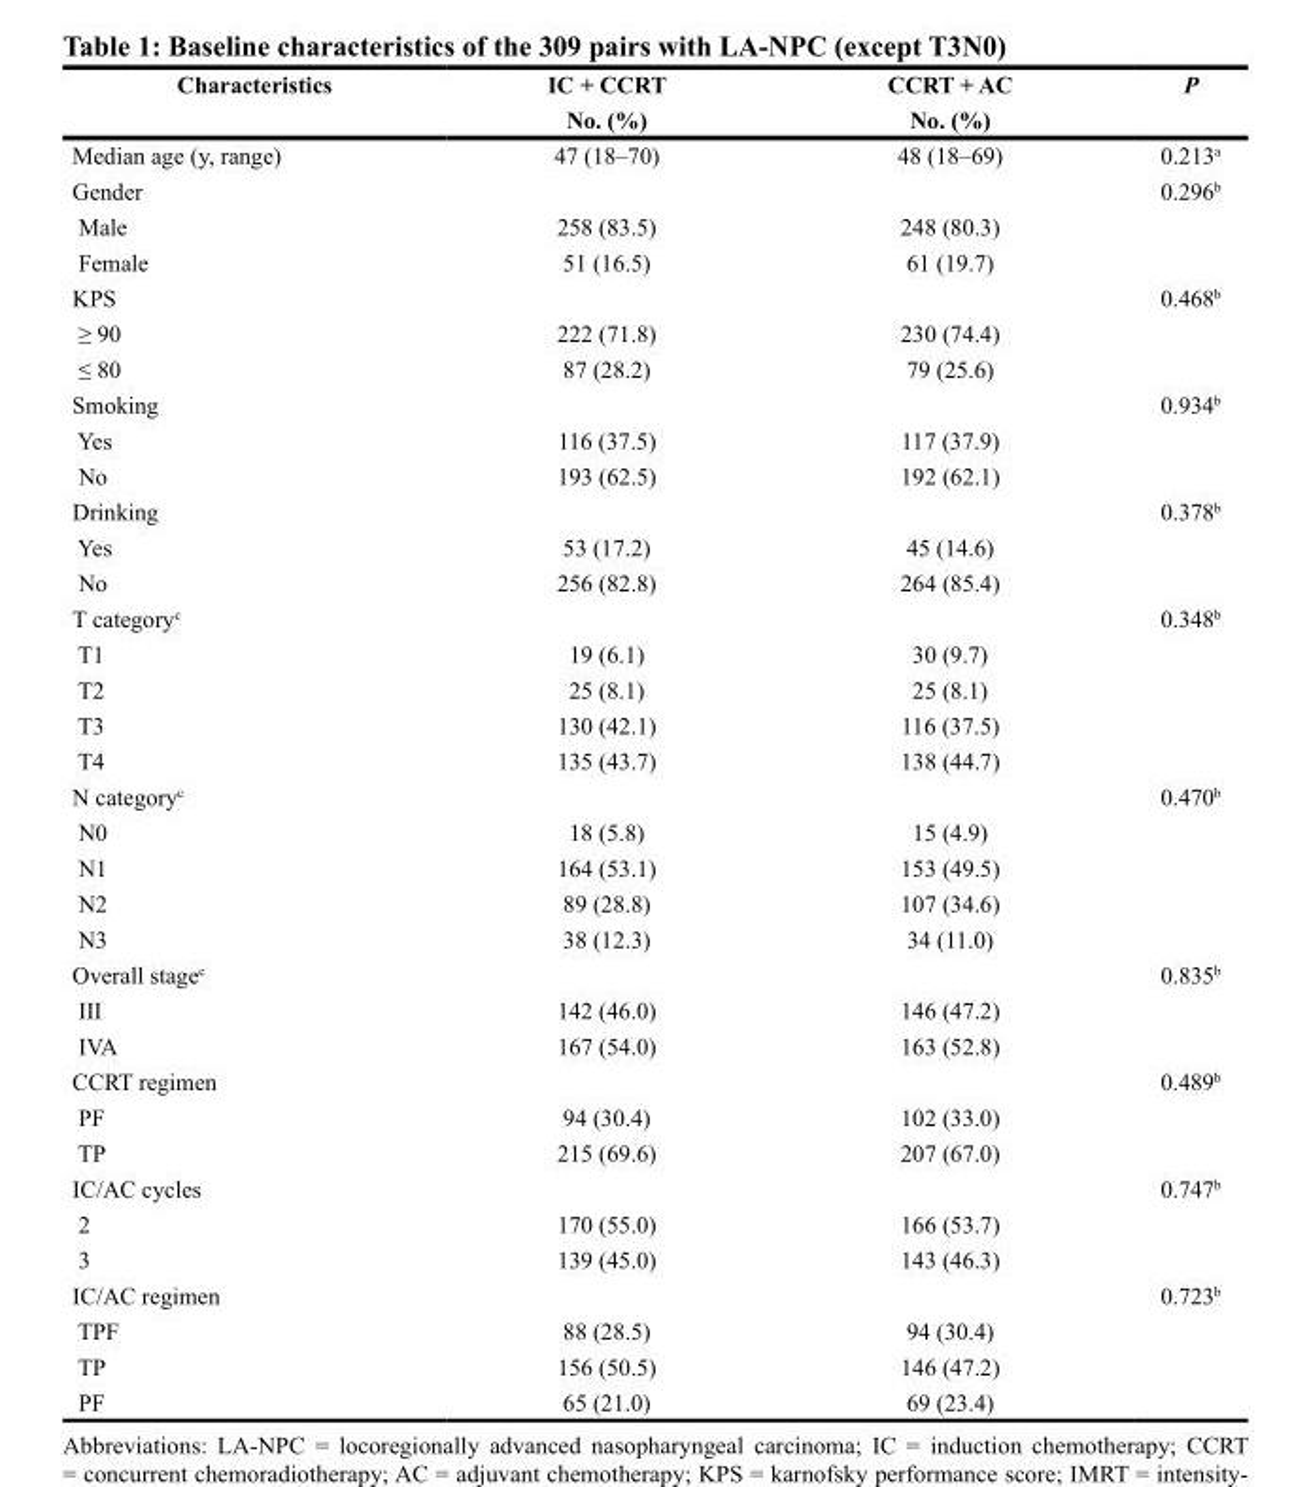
<table><thead><tr><td>Characteristics</td><td>IC + CCRT No. (%)</td><td>CCRT + AC No. (%)</td><td>P</td></tr></thead><tbody><tr><td>Median age (y, range)</td><td>47 (18–70)</td><td>48 (18–69)</td><td>0.213<sup>a</sup></td></tr><tr><td>Gender</td><td></td><td></td><td>0.296<sup>b</sup></td></tr><tr><td>Male</td><td>258 (83.5)</td><td>248 (80.3)</td><td></td></tr><tr><td>Female</td><td>51 (16.5)</td><td>61 (19.7)</td><td></td></tr><tr><td>KPS</td><td></td><td></td><td>0.468<sup>b</sup></td></tr><tr><td>≥ 90</td><td>222 (71.8)</td><td>230 (74.4)</td><td></td></tr><tr><td>≤ 80</td><td>87 (28.2)</td><td>79 (25.6)</td><td></td></tr><tr><td>Smoking</td><td></td><td></td><td>0.934<sup>b</sup></td></tr><tr><td>Yes</td><td>116 (37.5)</td><td>117 (37.9)</td><td></td></tr><tr><td>No</td><td>193 (62.5)</td><td>192 (62.1)</td><td></td></tr><tr><td>Drinking</td><td></td><td></td><td>0.378<sup>b</sup></td></tr><tr><td>Yes</td><td>53 (17.2)</td><td>45 (14.6)</td><td></td></tr><tr><td>No</td><td>256 (82.8)</td><td>264 (85.4)</td><td></td></tr><tr><td>T category<sup>c</sup></td><td></td><td></td><td>0.348<sup>b</sup></td></tr><tr><td>T1</td><td>19 (6.1)</td><td>30 (9.7)</td><td></td></tr><tr><td>T2</td><td>25 (8.1)</td><td>25 (8.1)</td><td></td></tr><tr><td>T3</td><td>130 (42.1)</td><td>116 (37.5)</td><td></td></tr><tr><td>T4</td><td>135 (43.7)</td><td>138 (44.7)</td><td></td></tr><tr><td>N category<sup>c</sup></td><td></td><td></td><td>0.470<sup>b</sup></td></tr><tr><td>N0</td><td>18 (5.8)</td><td>15 (4.9)</td><td></td></tr><tr><td>N1</td><td>164 (53.1)</td><td>153 (49.5)</td><td></td></tr><tr><td>N2</td><td>89 (28.8)</td><td>107 (34.6)</td><td></td></tr><tr><td>N3</td><td>38 (12.3)</td><td>34 (11.0)</td><td></td></tr><tr><td>Overall stage<sup>c</sup></td><td></td><td></td><td>0.835<sup>b</sup></td></tr><tr><td>III</td><td>142 (46.0)</td><td>146 (47.2)</td><td></td></tr><tr><td>IVA</td><td>167 (54.0)</td><td>163 (52.8)</td><td></td></tr><tr><td>CCRT regimen</td><td></td><td></td><td>0.489<sup>b</sup></td></tr><tr><td>PF</td><td>94 (30.4)</td><td>102 (33.0)</td><td></td></tr><tr><td>TP</td><td>215 (69.6)</td><td>207 (67.0)</td><td></td></tr><tr><td>IC/AC cycles</td><td></td><td></td><td>0.747<sup>b</sup></td></tr><tr><td>2</td><td>170 (55.0)</td><td>166 (53.7)</td><td></td></tr><tr><td>3</td><td>139 (45.0)</td><td>143 (46.3)</td><td></td></tr><tr><td>IC/AC regimen</td><td></td><td></td><td>0.723<sup>b</sup></td></tr><tr><td>TPF</td><td>88 (28.5)</td><td>94 (30.4)</td><td></td></tr><tr><td>TP</td><td>156 (50.5)</td><td>146 (47.2)</td><td></td></tr><tr><td>PF</td><td>65 (21.0)</td><td>69 (23.4)</td><td></td></tr></tbody></table>